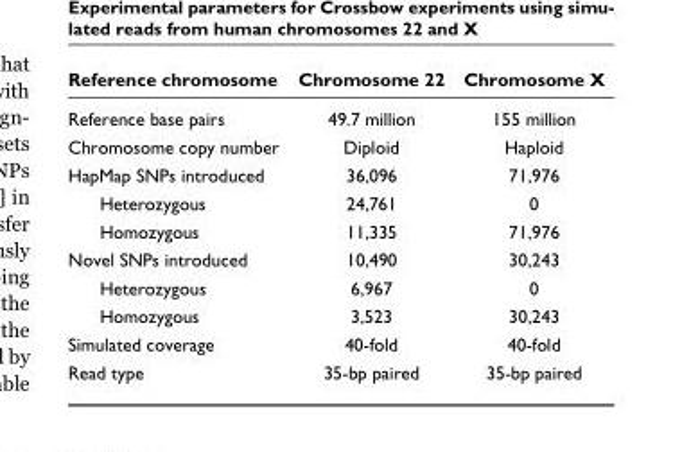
<table><thead><tr><td>Reference chromosome</td><td>Chromosome 22</td><td>Chromosome X</td></tr></thead><tbody><tr><td>Reference base pairs</td><td>49.7 million</td><td>155 million</td></tr><tr><td>Chromosome copy number</td><td>Diploid</td><td>Haploid</td></tr><tr><td>HapMap SNPs introduced</td><td>36,096</td><td>71,976</td></tr><tr><td>Heterozygous</td><td>24,761</td><td>0</td></tr><tr><td>Homozygous</td><td>11,335</td><td>71,976</td></tr><tr><td>Novel SNPs introduced</td><td>10,490</td><td>30,243</td></tr><tr><td>Heterozygous</td><td>6,967</td><td>0</td></tr><tr><td>Homozygous</td><td>3,523</td><td>30,243</td></tr><tr><td>Simulated coverage</td><td>40-fold</td><td>40-fold</td></tr><tr><td>Read type</td><td>35-bp paired</td><td>35-bp paired</td></tr></tbody></table>